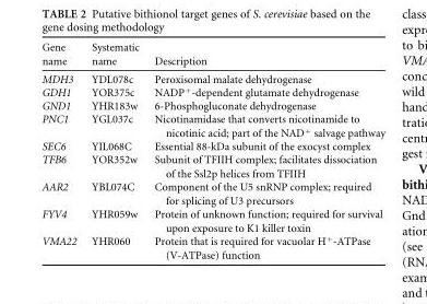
<table><thead><tr><td>Gene name</td><td>Systematic name</td><td>Description</td></tr></thead><tbody><tr><td>MDH3</td><td>YDL078c</td><td>Peroxisomal malate dehydrogenase</td></tr><tr><td>GDH1</td><td>YOR375c</td><td>NADP<sup>+</sup>-dependent glutamate dehydrogenase</td></tr><tr><td>GND1</td><td>YHR183w</td><td>6-Phosphogluconate dehydrogenase</td></tr><tr><td>PNC1</td><td>YGL037c</td><td>Nicotinamidase that converts nicotinamide to nicotinic acid; part of the NAD<sup>+</sup> salvage pathway</td></tr><tr><td>SEC6</td><td>YIL068C</td><td>Essential 88-kDa subunit of the exocyst complex</td></tr><tr><td>TFB6</td><td>YOR352w</td><td>Subunit of TFIIH complex; facilitates dissociation of the Ssl2p helices from TFIIH</td></tr><tr><td>AAR2</td><td>YBL074C</td><td>Component of the U5 snRNP complex; required for splicing of U3 precursors</td></tr><tr><td>FYV4</td><td>YHR059w</td><td>Protein of unknown function; required for survival upon exposure to K1 killer toxin</td></tr><tr><td>VMA22</td><td>YHR060</td><td>Protein that is required for vacuolar H<sup>+</sup>-ATPase (V-ATPase) function</td></tr></tbody></table>